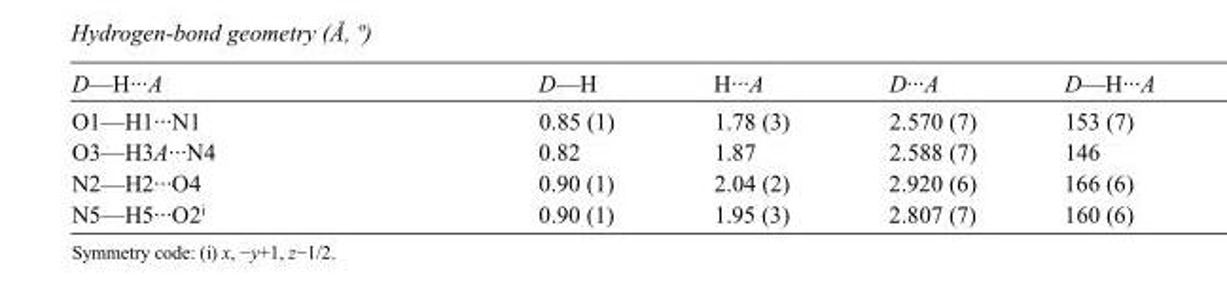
<table><tbody><tr><td>D—H···A</td><td>D—H</td><td>H···A</td><td>D···A</td><td>D—H···A</td></tr><tr><td>O1—H1···N1</td><td>0.85 (1)</td><td>1.78 (3)</td><td>2.570 (7)</td><td>153 (7)</td></tr><tr><td>O3—H3A···N4</td><td>0.82</td><td>1.87</td><td>2.588 (7)</td><td>146</td></tr><tr><td>N2—H2···O4</td><td>0.90 (1)</td><td>2.04 (2)</td><td>2.920 (6)</td><td>166 (6)</td></tr><tr><td>N5—H5···O2<sup>i</sup></td><td>0.90 (1)</td><td>1.95 (3)</td><td>2.807 (7)</td><td>160 (6)</td></tr></tbody></table>